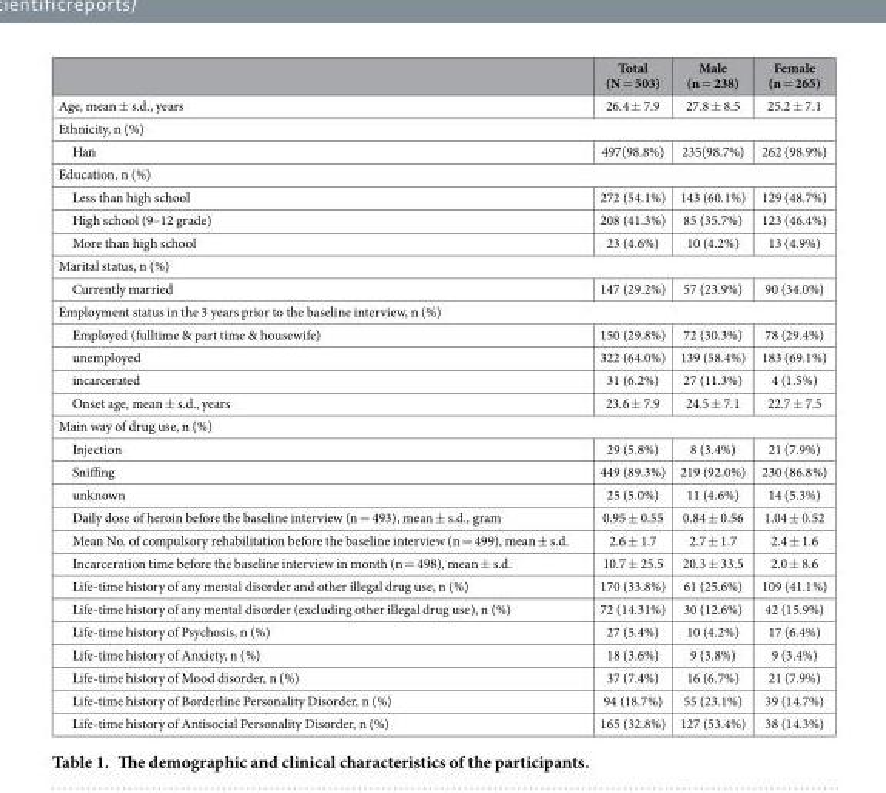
<table><thead><tr><td></td><td>Total (N = 503)</td><td>Male (n = 238)</td><td>Female (n = 265)</td></tr></thead><tbody><tr><td>Age, mean ± s.d., years</td><td>26.4 ± 7.9</td><td>27.8 ± 8.5</td><td>25.2 ± 7.1</td></tr><tr><td colspan="4">Ethnicity, n (%)</td></tr><tr><td>Han</td><td>497(98.8%)</td><td>235(98.7%)</td><td>262 (98.9%)</td></tr><tr><td colspan="4">Education, n (%)</td></tr><tr><td>Less than high school</td><td>272 (54.1%)</td><td>143 (60.1%)</td><td>129 (48.7%)</td></tr><tr><td>High school (9–12 grade)</td><td>208 (41.3%)</td><td>85 (35.7%)</td><td>123 (46.4%)</td></tr><tr><td>More than high school</td><td>23 (4.6%)</td><td>10 (4.2%)</td><td>13 (4.9%)</td></tr><tr><td colspan="4">Marital status, n (%)</td></tr><tr><td>Currently married</td><td>147 (29.2%)</td><td>57 (23.9%)</td><td>90 (34.0%)</td></tr><tr><td colspan="4">Employment status in the 3 years prior to the baseline interview, n (%)</td></tr><tr><td>Employed (fulltime &amp; part time &amp; housewife)</td><td>150 (29.8%)</td><td>72 (30.3%)</td><td>78 (29.4%)</td></tr><tr><td>unemployed</td><td>322 (64.0%)</td><td>139 (58.4%)</td><td>183 (69.1%)</td></tr><tr><td>incarcerated</td><td>31 (6.2%)</td><td>27 (11.3%)</td><td>4 (1.5%)</td></tr><tr><td>Onset age, mean ± s.d., years</td><td>23.6 ± 7.9</td><td>24.5 ± 7.1</td><td>22.7 ± 7.5</td></tr><tr><td colspan="4">Main way of drug use, n (%)</td></tr><tr><td>Injection</td><td>29 (5.8%)</td><td>8 (3.4%)</td><td>21 (7.9%)</td></tr><tr><td>Sniffing</td><td>449 (89.3%)</td><td>219 (92.0%)</td><td>230 (86.8%)</td></tr><tr><td>unknown</td><td>25 (5.0%)</td><td>11 (4.6%)</td><td>14 (5.3%)</td></tr><tr><td>Daily dose of heroin before the baseline interview (n = 493), mean ± s.d., gram</td><td>0.95 ± 0.55</td><td>0.84 ± 0.56</td><td>1.04 ± 0.52</td></tr><tr><td>Mean No. of compulsory rehabilitation before the baseline interview (n = 499), mean ± s.d.</td><td>2.6 ± 1.7</td><td>2.7 ± 1.7</td><td>2.4 ± 1.6</td></tr><tr><td>Incarceration time before the baseline interview in month (n = 498), mean ± s.d.</td><td>10.7 ± 25.5</td><td>20.3 ± 33.5</td><td>2.0 ± 8.6</td></tr><tr><td>Life-time history of any mental disorder and other illegal drug use, n (%)</td><td>170 (33.8%)</td><td>61 (25.6%)</td><td>109 (41.1%)</td></tr><tr><td>Life-time history of any mental disorder (excluding other illegal drug use), n (%)</td><td>72 (14.31%)</td><td>30 (12.6%)</td><td>42 (15.9%)</td></tr><tr><td>Life-time history of Psychosis, n (%)</td><td>27 (5.4%)</td><td>10 (4.2%)</td><td>17 (6.4%)</td></tr><tr><td>Life-time history of Anxiety, n (%)</td><td>18 (3.6%)</td><td>9 (3.8%)</td><td>9 (3.4%)</td></tr><tr><td>Life-time history of Mood disorder, n (%)</td><td>37 (7.4%)</td><td>16 (6.7%)</td><td>21 (7.9%)</td></tr><tr><td>Life-time history of Borderline Personality Disorder, n (%)</td><td>94 (18.7%)</td><td>55 (23.1%)</td><td>39 (14.7%)</td></tr><tr><td>Life-time history of Antisocial Personality Disorder, n (%)</td><td>165 (32.8%)</td><td>127 (53.4%)</td><td>38 (14.3%)</td></tr></tbody></table>